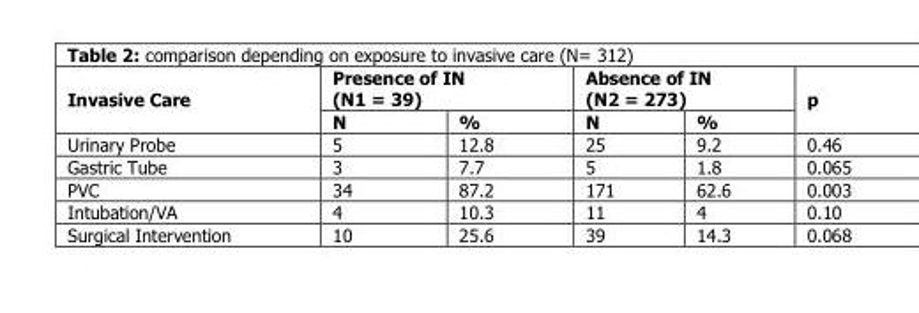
<table><thead><tr><td rowspan="2">Invasive Care</td><td colspan="2">Presence of IN (N1 = 39)</td><td colspan="2">Absence of IN (N2 = 273)</td><td rowspan="2">p</td></tr><tr><td>N</td><td>%</td><td>N</td><td>%</td></tr></thead><tbody><tr><td>Urinary Probe</td><td>5</td><td>12.8</td><td>25</td><td>9.2</td><td>0.46</td></tr><tr><td>Gastric Tube</td><td>3</td><td>7.7</td><td>5</td><td>1.8</td><td>0.065</td></tr><tr><td>PVC</td><td>34</td><td>87.2</td><td>171</td><td>62.6</td><td>0.003</td></tr><tr><td>Intubation/VA</td><td>4</td><td>10.3</td><td>11</td><td>4</td><td>0.10</td></tr><tr><td>Surgical Intervention</td><td>10</td><td>25.6</td><td>39</td><td>14.3</td><td>0.068</td></tr></tbody></table>